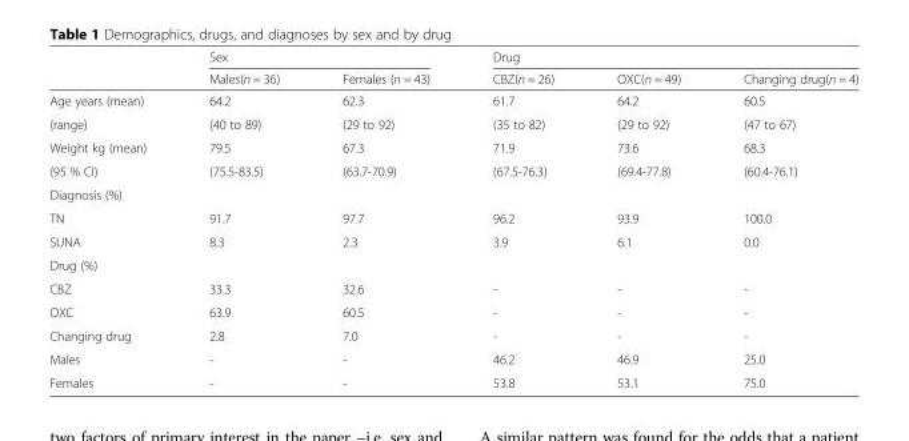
<table><thead><tr><td rowspan="2"></td><td colspan="2">Sex</td><td colspan="3">Drug</td></tr><tr><td>Males(n = 36)</td><td>Females (n = 43)</td><td>CBZ(n = 26)</td><td>OXC(n = 49)</td><td>Changing drug(n = 4)</td></tr></thead><tbody><tr><td>Age years (mean)</td><td>64.2</td><td>62.3</td><td>61.7</td><td>64.2</td><td>60.5</td></tr><tr><td>(range)</td><td>(40 to 89)</td><td>(29 to 92)</td><td>(35 to 82)</td><td>(29 to 92)</td><td>(47 to 67)</td></tr><tr><td>Weight kg (mean)</td><td>79.5</td><td>67.3</td><td>71.9</td><td>73.6</td><td>68.3</td></tr><tr><td>(95 % CI)</td><td>(75.5-83.5)</td><td>(63.7-70.9)</td><td>(67.5-76.3)</td><td>(69.4-77.8)</td><td>(60.4-76.1)</td></tr><tr><td colspan="6">Diagnosis (%)</td></tr><tr><td>TN</td><td>91.7</td><td>97.7</td><td>96.2</td><td>93.9</td><td>100.0</td></tr><tr><td>SUNA</td><td>8.3</td><td>2.3</td><td>3.9</td><td>6.1</td><td>0.0</td></tr><tr><td colspan="6">Drug (%)</td></tr><tr><td>CBZ</td><td>33.3</td><td>32.6</td><td>-</td><td>-</td><td>-</td></tr><tr><td>OXC</td><td>63.9</td><td>60.5</td><td>-</td><td>-</td><td>-</td></tr><tr><td>Changing drug</td><td>2.8</td><td>7.0</td><td>-</td><td>-</td><td>-</td></tr><tr><td>Males</td><td>-</td><td>-</td><td>46.2</td><td>46.9</td><td>25.0</td></tr><tr><td>Females</td><td>-</td><td>-</td><td>53.8</td><td>53.1</td><td>75.0</td></tr></tbody></table>